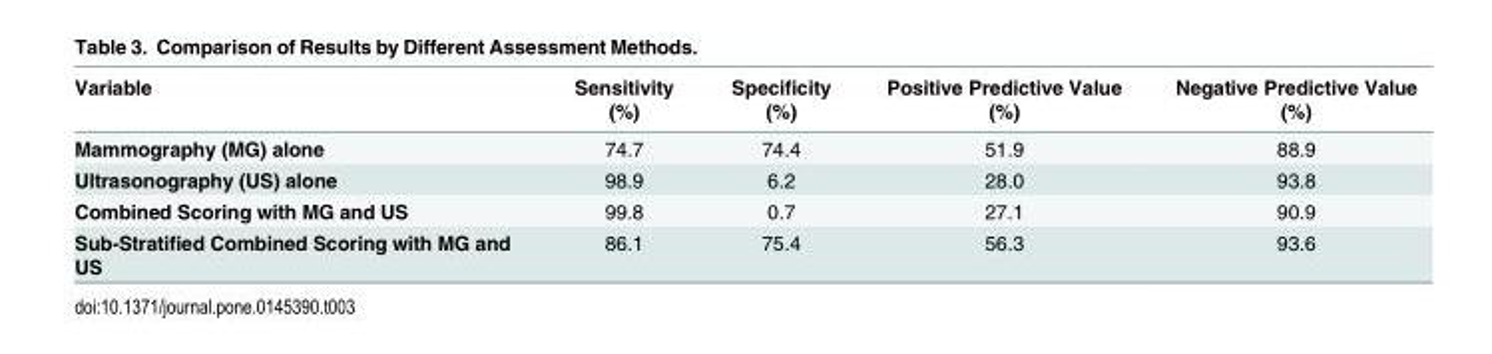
<table><thead><tr><td>Variable</td><td>Sensitivity (%)</td><td>Specificity (%)</td><td>Positive Predictive Value (%)</td><td>Negative Predictive Value (%)</td></tr></thead><tbody><tr><td>Mammography (MG) alone</td><td>74.7</td><td>74.4</td><td>51.9</td><td>88.9</td></tr><tr><td>Ultrasonography (US) alone</td><td>98.9</td><td>6.2</td><td>28.0</td><td>93.8</td></tr><tr><td>Combined Scoring with MG and US</td><td>99.8</td><td>0.7</td><td>27.1</td><td>90.9</td></tr><tr><td>Sub-Stratified Combined Scoring with MG and US</td><td>86.1</td><td>75.4</td><td>56.3</td><td>93.6</td></tr></tbody></table>